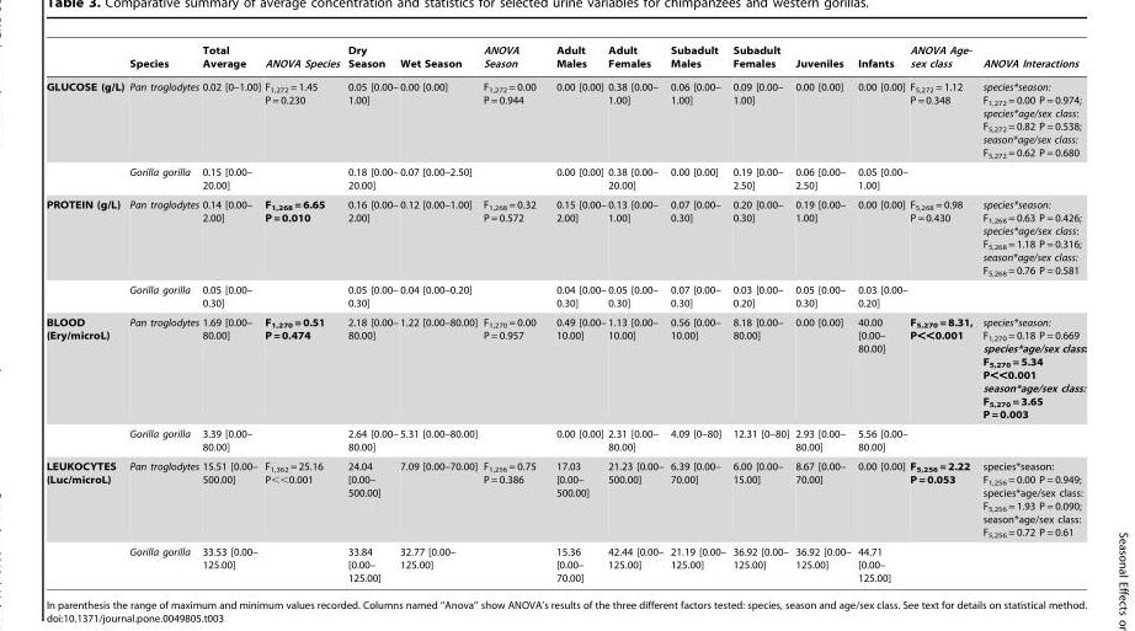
<table><thead><tr><td></td><td>Species</td><td>Total Average</td><td>ANOVA Species</td><td>Dry Season</td><td>Wet Season</td><td>ANOVA Season</td><td>Adult Males</td><td>Adult Females</td><td>Subadult Males</td><td>Subadult Females</td><td>Juveniles</td><td>Infants</td><td>ANOVA Age- sex class</td><td>ANOVA Interactions</td></tr></thead><tbody><tr><td rowspan="2">GLUCOSE (g/L)</td><td>Pan troglodytes</td><td>0.02 [0–1.00]</td><td>F<sub>1,272</sub> = 1.45 P = 0.230</td><td>0.05 [0.00– 1.00]</td><td>0.00 [0.00]</td><td>F<sub>1,272</sub> = 0.00 P = 0.944</td><td>0.00 [0.00]</td><td>0.38 [0.00– 1.00]</td><td>0.06 [0.00– 1.00]</td><td>0.09 [0.00– 1.00]</td><td>0.00 [0.00]</td><td>0.00 [0.00]</td><td>F<sub>5,272</sub> = 1.12 P = 0.348</td><td>species*season: F<sub>1,272</sub> = 0.00 P = 0.974; species*age/sex class: F<sub>5,272</sub> = 0.82 P = 0.538; season*age/sex class: F<sub>5,272</sub> = 0.62 P = 0.680</td></tr><tr><td>Gorilla gorilla</td><td>0.15 [0.00– 20.00]</td><td></td><td>0.18 [0.00– 20.00]</td><td>0.07 [0.00–2.50]</td><td></td><td>0.00 [0.00]</td><td>0.38 [0.00– 20.00]</td><td>0.00 [0.00]</td><td>0.19 [0.00– 2.50]</td><td>0.06 [0.00– 2.50]</td><td>0.05 [0.00– 1.00]</td><td></td><td></td></tr><tr><td rowspan="2">PROTEIN (g/L)</td><td>Pan troglodytes</td><td>0.14 [0.00– 2.00]</td><td>F<sub>1,268</sub> = 6.65 P = 0.010</td><td>0.16 [0.00– 2.00]</td><td>0.12 [0.00–1.00]</td><td>F<sub>1,268</sub> = 0.32 P = 0.572</td><td>0.15 [0.00– 2.00]</td><td>0.13 [0.00– 1.00]</td><td>0.07 [0.00– 0.30]</td><td>0.20 [0.00– 0.30]</td><td>0.19 [0.00– 1.00]</td><td>0.00 [0.00]</td><td>F<sub>5,268</sub> = 0.98 P = 0.430</td><td>species*season: F<sub>1,268</sub> = 0.63 P = 0.426; species*age/sex class: F<sub>5,268</sub> = 1.18 P = 0.316; season*age/sex class: F<sub>5,268</sub> = 0.76 P = 0.581</td></tr><tr><td>Gorilla gorilla</td><td>0.05 [0.00– 0.30]</td><td></td><td>0.05 [0.00– 0.30]</td><td>0.04 [0.00–0.20]</td><td></td><td>0.04 [0.00– 0.30]</td><td>0.05 [0.00– 0.30]</td><td>0.07 [0.00– 0.30]</td><td>0.03 [0.00– 0.20]</td><td>0.05 [0.00– 0.30]</td><td>0.03 [0.00– 0.20]</td><td></td><td></td></tr><tr><td rowspan="2">BLOOD (Ery/microL)</td><td>Pan troglodytes</td><td>1.69 [0.00– 80.00]</td><td>F<sub>1,270</sub> = 0.51 P = 0.474</td><td>2.18 [0.00– 80.00]</td><td>1.22 [0.00–80.00]</td><td>F<sub>1,270</sub> = 0.00 P = 0.957</td><td>0.49 [0.00– 10.00]</td><td>1.13 [0.00– 10.00]</td><td>0.56 [0.00– 10.00]</td><td>8.18 [0.00– 80.00]</td><td>0.00 [0.00]</td><td>40.00 [0.00– 80.00]</td><td>F<sub>5,270</sub> = 8.31, P&lt;&lt;0.001</td><td>species*season: F<sub>1,270</sub> = 0.18 P = 0.669 species*age/sex class: F<sub>5,270</sub> = 5.34 P&lt;&lt;0.001 season*age/sex class: F<sub>5,270</sub> = 3.65 P = 0.003</td></tr><tr><td>Gorilla gorilla</td><td>3.39 [0.00– 80.00]</td><td></td><td>2.64 [0.00– 80.00]</td><td>5.31 [0.00–80.00]</td><td></td><td>0.00 [0.00]</td><td>2.31 [0.00– 80.00]</td><td>4.09 [0–80]</td><td>12.31 [0–80]</td><td>2.93 [0.00– 80.00]</td><td>5.56 [0.00– 80.00]</td><td></td><td></td></tr><tr><td rowspan="2">LEUKOCYTES (Luc/microL)</td><td>Pan troglodytes</td><td>15.51 [0.00– 500.00]</td><td>F<sub>1,362</sub> = 25.16 P&lt;&lt;0.001</td><td>24.04 [0.00– 500.00]</td><td>7.09 [0.00–70.00]</td><td>F<sub>1,256</sub> = 0.75 P = 0.386</td><td>17.03 [0.00– 500.00]</td><td>21.23 [0.00– 500.00]</td><td>6.39 [0.00– 70.00]</td><td>6.00 [0.00– 15.00]</td><td>8.67 [0.00– 70.00]</td><td>0.00 [0.00]</td><td>F<sub>5,256</sub> = 2.22 P = 0.053</td><td>species*season: F<sub>1,256</sub> = 0.00 P = 0.949; species*age/sex class: F<sub>5,256</sub> = 1.93 P = 0.090; season*age/sex class: F<sub>5,256</sub> = 0.72 P = 0.61</td></tr><tr><td>Gorilla gorilla</td><td>33.53 [0.00– 125.00]</td><td></td><td>33.84 [0.00– 125.00]</td><td>32.77 [0.00– 125.00]</td><td></td><td>15.36 [0.00– 70.00]</td><td>42.44 [0.00– 125.00]</td><td>21.19 [0.00– 125.00]</td><td>36.92 [0.00– 125.00]</td><td>36.92 [0.00– 125.00]</td><td>44.71 [0.00– 125.00]</td><td></td><td></td></tr></tbody></table>